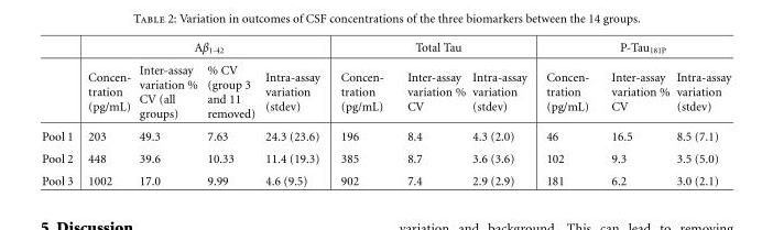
<table><thead><tr><td rowspan="2"></td><td colspan="4">Aβ<sub>1-42</sub></td><td colspan="3">Total Tau</td><td colspan="3">P-Tau<sub>181P</sub></td></tr><tr><td>Concen- tration (pg/mL)</td><td>Inter-assay variation % CV (all groups)</td><td>% CV (group 3 and 11 removed)</td><td>Intra-assay variation (stdev)</td><td>Concen- tration (pg/mL)</td><td>Inter-assay variation % CV</td><td>Intra-assay variation (stdev)</td><td>Concen- tration (pg/mL)</td><td>Inter-assay variation % CV</td><td>Intra-assay variation (stdev)</td></tr></thead><tbody><tr><td>Pool 1</td><td>203</td><td>49.3</td><td>7.63</td><td>24.3 (23.6)</td><td>196</td><td>8.4</td><td>4.3 (2.0)</td><td>46</td><td>16.5</td><td>8.5 (7.1)</td></tr><tr><td>Pool 2</td><td>448</td><td>39.6</td><td>10.33</td><td>11.4 (19.3)</td><td>385</td><td>8.7</td><td>3.6 (3.6)</td><td>102</td><td>9.3</td><td>3.5 (5.0)</td></tr><tr><td>Pool 3</td><td>1002</td><td>17.0</td><td>9.99</td><td>4.6 (9.5)</td><td>902</td><td>7.4</td><td>2.9 (2.9)</td><td>181</td><td>6.2</td><td>3.0 (2.1)</td></tr></tbody></table>